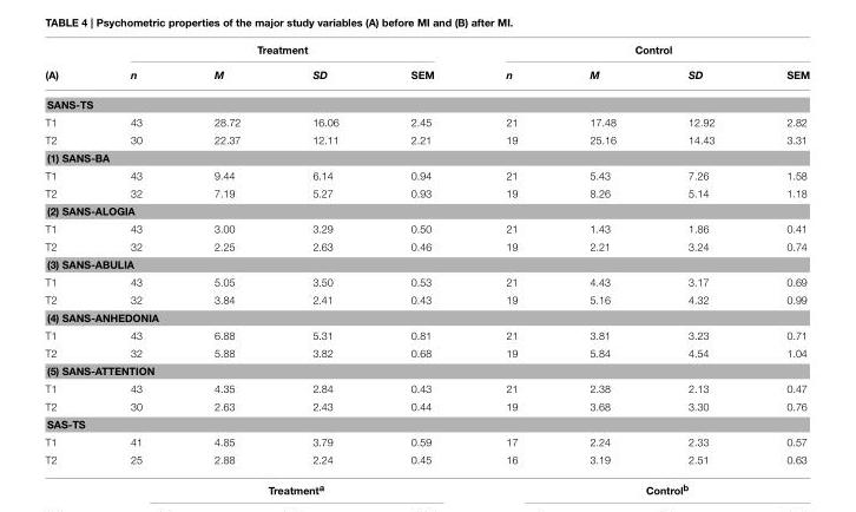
<table><thead><tr><td rowspan="2">(A)</td><td colspan="4">Treatment</td><td colspan="4">Control</td></tr><tr><td>n</td><td>M</td><td>SD</td><td>SEM</td><td>n</td><td>M</td><td>SD</td><td>SEM</td></tr></thead><tbody><tr><td colspan="9">SANS-TS</td></tr><tr><td>T1</td><td>43</td><td>28.72</td><td>16.06</td><td>2.45</td><td>21</td><td>17.48</td><td>12.92</td><td>2.82</td></tr><tr><td>T2</td><td>30</td><td>22.37</td><td>12.11</td><td>2.21</td><td>19</td><td>25.16</td><td>14.43</td><td>3.31</td></tr><tr><td colspan="9">(1) SANS-BA</td></tr><tr><td>T1</td><td>43</td><td>9.44</td><td>6.14</td><td>0.94</td><td>21</td><td>5.43</td><td>7.26</td><td>1.58</td></tr><tr><td>T2</td><td>32</td><td>7.19</td><td>5.27</td><td>0.93</td><td>19</td><td>8.26</td><td>5.14</td><td>1.18</td></tr><tr><td colspan="9">(2) SANS-ALOGIA</td></tr><tr><td>T1</td><td>43</td><td>3.00</td><td>3.29</td><td>0.50</td><td>21</td><td>1.43</td><td>1.86</td><td>0.41</td></tr><tr><td>T2</td><td>32</td><td>2.25</td><td>2.63</td><td>0.46</td><td>19</td><td>2.21</td><td>3.24</td><td>0.74</td></tr><tr><td colspan="9">(3) SANS-ABULIA</td></tr><tr><td>T1</td><td>43</td><td>5.05</td><td>3.50</td><td>0.53</td><td>21</td><td>4.43</td><td>3.17</td><td>0.69</td></tr><tr><td>T2</td><td>32</td><td>3.84</td><td>2.41</td><td>0.43</td><td>19</td><td>5.16</td><td>4.32</td><td>0.99</td></tr><tr><td colspan="9">(4) SANS-ANHEDONIA</td></tr><tr><td>T1</td><td>43</td><td>6.88</td><td>5.31</td><td>0.81</td><td>21</td><td>3.81</td><td>3.23</td><td>0.71</td></tr><tr><td>T2</td><td>32</td><td>5.88</td><td>3.82</td><td>0.68</td><td>19</td><td>5.84</td><td>4.54</td><td>1.04</td></tr><tr><td colspan="9">(5) SANS-ATTENTION</td></tr><tr><td>T1</td><td>43</td><td>4.35</td><td>2.84</td><td>0.43</td><td>21</td><td>2.38</td><td>2.13</td><td>0.47</td></tr><tr><td>T2</td><td>30</td><td>2.63</td><td>2.43</td><td>0.44</td><td>19</td><td>3.68</td><td>3.30</td><td>0.76</td></tr><tr><td colspan="9">SAS-TS</td></tr><tr><td>T1</td><td>41</td><td>4.85</td><td>3.79</td><td>0.59</td><td>17</td><td>2.24</td><td>2.33</td><td>0.57</td></tr><tr><td>T2</td><td>25</td><td>2.88</td><td>2.24</td><td>0.45</td><td>16</td><td>3.19</td><td>2.51</td><td>0.63</td></tr></tbody></table>